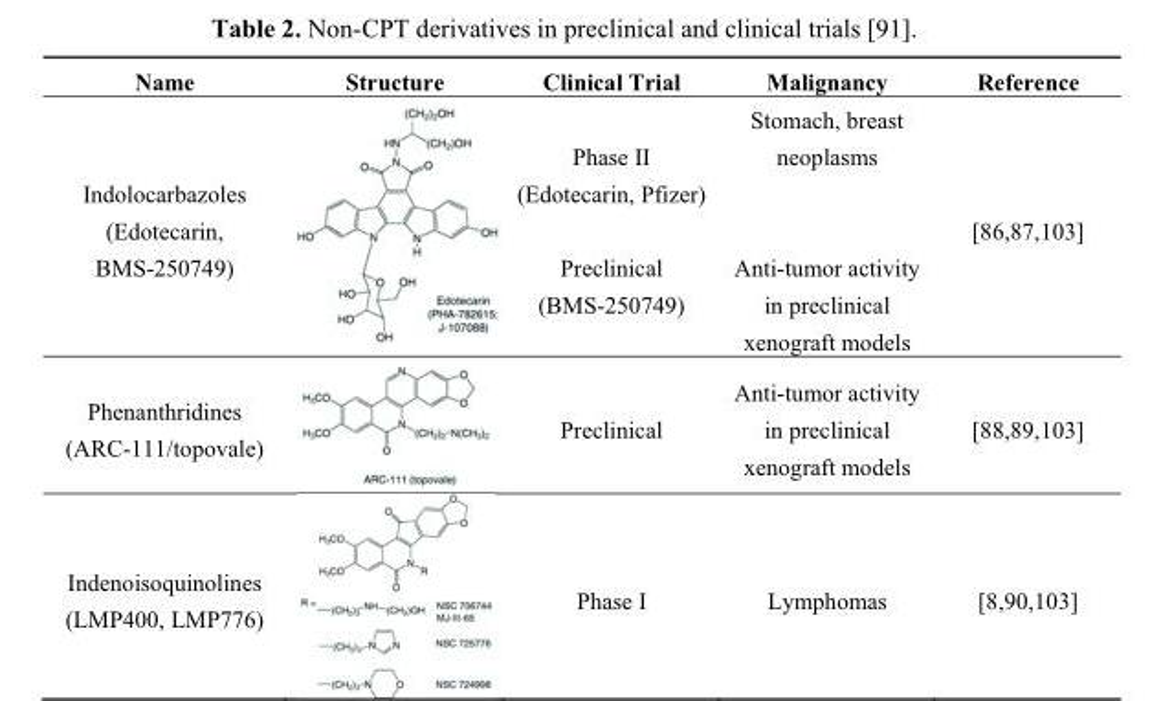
<table><thead><tr><td>Name</td><td>Structure</td><td>Clinical Trial</td><td>Malignancy</td><td>Reference</td></tr></thead><tbody><tr><td>Indolocarbazoles (Edotecarin, BMS-250749)</td><td></td><td>Phase II (Edotecarin, Pfizer) Preclinical (BMS-250749)</td><td>Stomach, breast neoplasms Anti-tumor activity in preclinical xenograft models</td><td>[86,87,103]</td></tr><tr><td>Phenanthridines (ARC-111/topovale)</td><td></td><td>Preclinical</td><td>Anti-tumor activity in preclinical xenograft models</td><td>[88,89,103]</td></tr><tr><td>Indenoisoquinolines (LMP400, LMP776)</td><td></td><td>Phase I</td><td>Lymphomas</td><td>[8,90,103]</td></tr></tbody></table>